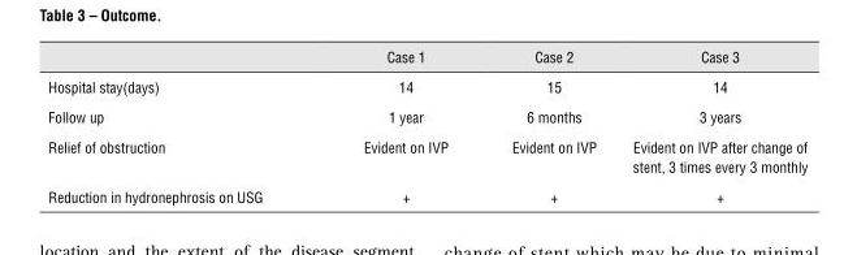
<table><thead><tr><td></td><td>Case 1</td><td>Case 2</td><td>Case 3</td></tr></thead><tbody><tr><td>Hospital stay(days)</td><td>14</td><td>15</td><td>14</td></tr><tr><td>Follow up</td><td>1 year</td><td>6 months</td><td>3 years</td></tr><tr><td>Relief of obstruction</td><td>Evident on IVP</td><td>Evident on IVP</td><td>Evident on IVP after change of stent, 3 times every 3 monthly</td></tr><tr><td>Reduction in hydronephrosis on USG</td><td>+</td><td>+</td><td>+</td></tr></tbody></table>